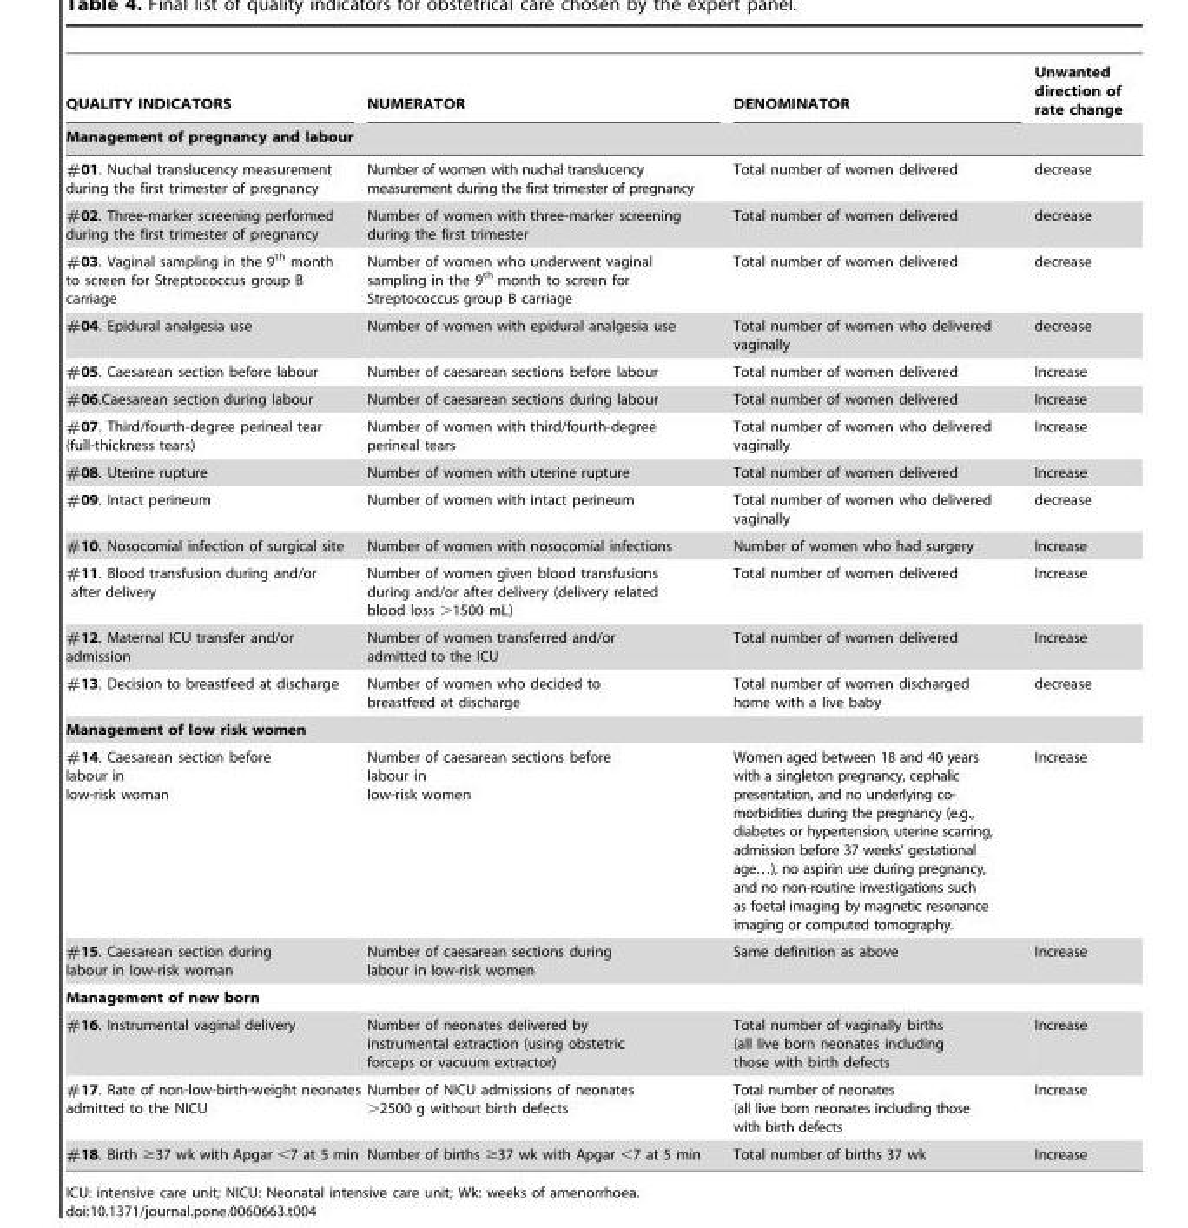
<table><thead><tr><td>QUALITY INDICATORS</td><td>NUMERATOR</td><td>DENOMINATOR</td><td rowspan="2">Unwanted direction of rate change</td></tr><tr><td colspan="3">Management of pregnancy and labour</td></tr></thead><tbody><tr><td>#01. Nuchal translucency measurement during the first trimester of pregnancy</td><td>Number of women with nuchal translucency measurement during the first trimester of pregnancy</td><td>Total number of women delivered</td><td>decrease</td></tr><tr><td>#02. Three-marker screening performed during the first trimester of pregnancy</td><td>Number of women with three-marker screening during the first trimester</td><td>Total number of women delivered</td><td>decrease</td></tr><tr><td>#03. Vaginal sampling in the 9<sup>th</sup> month to screen for Streptococcus group B carriage</td><td>Number of women who underwent vaginal sampling in the 9<sup>th</sup> month to screen for Streptococcus group B carriage</td><td>Total number of women delivered</td><td>decrease</td></tr><tr><td>#04. Epidural analgesia use</td><td>Number of women with epidural analgesia use</td><td>Total number of women who delivered vaginally</td><td>decrease</td></tr><tr><td>#05. Caesarean section before labour</td><td>Number of caesarean sections before labour</td><td>Total number of women delivered</td><td>Increase</td></tr><tr><td>#06.Caesarean section during labour</td><td>Number of caesarean sections during labour</td><td>Total number of women delivered</td><td>Increase</td></tr><tr><td>#07. Third/fourth-degree perineal tear (full-thickness tears)</td><td>Number of women with third/fourth-degree perineal tears</td><td>Total number of women who delivered vaginally</td><td>Increase</td></tr><tr><td>#08. Uterine rupture</td><td>Number of women with uterine rupture</td><td>Total number of women delivered</td><td>Increase</td></tr><tr><td>#09. Intact perineum</td><td>Number of women with intact perineum</td><td>Total number of women who delivered vaginally</td><td>decrease</td></tr><tr><td>#10. Nosocomial infection of surgical site</td><td>Number of women with nosocomial infections</td><td>Number of women who had surgery</td><td>Increase</td></tr><tr><td>#11. Blood transfusion during and/or after delivery</td><td>Number of women given blood transfusions during and/or after delivery (delivery related blood loss &gt;1500 mL)</td><td>Total number of women delivered</td><td>Increase</td></tr><tr><td>#12. Maternal ICU transfer and/or admission</td><td>Number of women transferred and/or admitted to the ICU</td><td>Total number of women delivered</td><td>Increase</td></tr><tr><td>#13. Decision to breastfeed at discharge</td><td>Number of women who decided to breastfeed at discharge</td><td>Total number of women discharged home with a live baby</td><td>decrease</td></tr><tr><td colspan="4">Management of low risk women</td></tr><tr><td>#14. Caesarean section before labour in low-risk woman</td><td>Number of caesarean sections before labour in low-risk women</td><td>Women aged between 18 and 40 years with a singleton pregnancy, cephalic presentation, and no underlying co- morbidities during the pregnancy (e.g., diabetes or hypertension, uterine scarring, admission before 37 weeks’ gestational age…), no aspirin use during pregnancy, and no non-routine investigations such as foetal imaging by magnetic resonance imaging or computed tomography.</td><td>Increase</td></tr><tr><td>#15. Caesarean section during labour in low-risk woman</td><td>Number of caesarean sections during labour in low-risk women</td><td>Same definition as above</td><td>Increase</td></tr><tr><td colspan="4">Management of new born</td></tr><tr><td>#16. Instrumental vaginal delivery</td><td>Number of neonates delivered by instrumental extraction (using obstetric forceps or vacuum extractor)</td><td>Total number of vaginally births (all live born neonates including those with birth defects</td><td>Increase</td></tr><tr><td>#17. Rate of non-low-birth-weight neonates admitted to the NICU</td><td>Number of NICU admissions of neonates &gt;2500 g without birth defects</td><td>Total number of neonates (all live born neonates including those with birth defects</td><td>Increase</td></tr><tr><td>#18. Birth ≥37 wk with Apgar &lt;7 at 5 min</td><td>Number of births ≥37 wk with Apgar &lt;7 at 5 min</td><td>Total number of births 37 wk</td><td>Increase</td></tr></tbody></table>